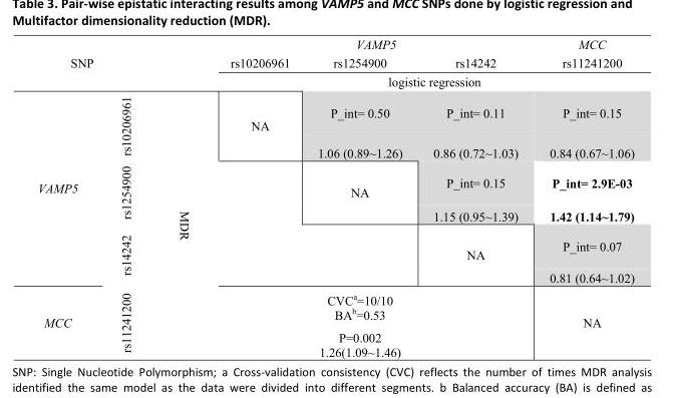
<table><tbody><tr><td rowspan="3" colspan="2">SNP</td><td rowspan="3"></td><td colspan="3">VAMP5</td><td>MCC</td></tr><tr><td>rs10206961</td><td>rs1254900</td><td>rs14242</td><td>rs11241200</td></tr><tr><td colspan="4">logistic regression</td></tr><tr><td rowspan="6">VAMP5</td><td rowspan="2">rs10206961</td><td rowspan="8">MDR</td><td rowspan="2">NA</td><td>P_int= 0.50</td><td>P_int= 0.11</td><td>P_int= 0.15</td></tr><tr><td>1.06 (0.89~1.26)</td><td>0.86 (0.72~1.03)</td><td>0.84 (0.67~1.06)</td></tr><tr><td rowspan="2">rs1254900</td><td></td><td rowspan="2">NA</td><td>P_int= 0.15</td><td>P_int= 2.9E-03</td></tr><tr><td></td><td>1.15 (0.95~1.39)</td><td>1.42 (1.14~1.79)</td></tr><tr><td rowspan="2">rs14242</td><td></td><td></td><td rowspan="2">NA</td><td>P_int= 0.07</td></tr><tr><td></td><td></td><td>0.81 (0.64~1.02)</td></tr><tr><td rowspan="2">MCC</td><td rowspan="2">rs11241200</td><td></td><td>CVC<sup>a</sup>=10/10 BA<sup>b</sup>=0.53</td><td></td><td rowspan="2">NA</td></tr><tr><td></td><td>P=0.002 1.26(1.09~1.46)</td><td></td></tr></tbody></table>